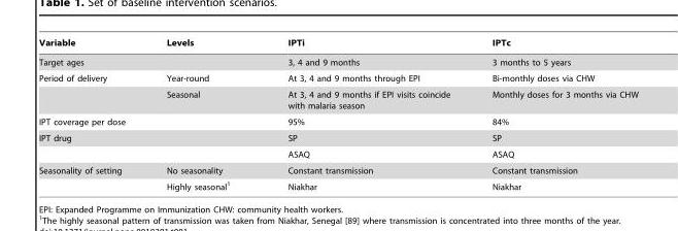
<table><thead><tr><td>Variable</td><td>Levels</td><td>IPTi</td><td>IPTc</td></tr></thead><tbody><tr><td>Target ages</td><td></td><td>3, 4 and 9 months</td><td>3 months to 5 years</td></tr><tr><td rowspan="2">Period of delivery</td><td>Year-round</td><td>At 3, 4 and 9 months through EPI</td><td>Bi-monthly doses via CHW</td></tr><tr><td>Seasonal</td><td>At 3, 4 and 9 months if EPI visits coincide with malaria season</td><td>Monthly doses for 3 months via CHW</td></tr><tr><td>IPT coverage per dose</td><td></td><td>95%</td><td>84%</td></tr><tr><td rowspan="2">IPT drug</td><td></td><td>SP</td><td>SP</td></tr><tr><td></td><td>ASAQ</td><td>ASAQ</td></tr><tr><td rowspan="2">Seasonality of setting</td><td>No seasonality</td><td>Constant transmission</td><td>Constant transmission</td></tr><tr><td>Highly seasonal<sup>1</sup></td><td>Niakhar</td><td>Niakhar</td></tr></tbody></table>